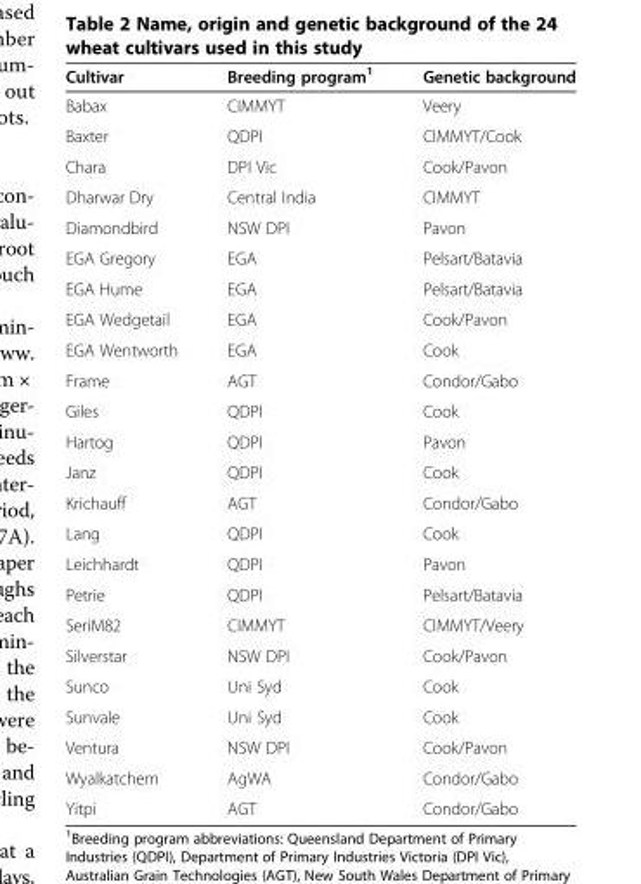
<table><thead><tr><td>Cultivar</td><td>Breeding program<sup>1</sup></td><td>Genetic background</td></tr></thead><tbody><tr><td>Babax</td><td>CIMMYT</td><td>Veery</td></tr><tr><td>Baxter</td><td>QDPI</td><td>CIMMYT/Cook</td></tr><tr><td>Chara</td><td>DPI Vic</td><td>Cook/Pavon</td></tr><tr><td>Dharwar Dry</td><td>Central India</td><td>CIMMYT</td></tr><tr><td>Diamondbird</td><td>NSW DPI</td><td>Pavon</td></tr><tr><td>EGA Gregory</td><td>EGA</td><td>Pelsart/Batavia</td></tr><tr><td>EGA Hume</td><td>EGA</td><td>Pelsart/Batavia</td></tr><tr><td>EGA Wedgetail</td><td>EGA</td><td>Cook/Pavon</td></tr><tr><td>EGA Wentworth</td><td>EGA</td><td>Cook</td></tr><tr><td>Frame</td><td>AGT</td><td>Condor/Gabo</td></tr><tr><td>Giles</td><td>QDPI</td><td>Cook</td></tr><tr><td>Hartog</td><td>QDPI</td><td>Pavon</td></tr><tr><td>Janz</td><td>QDPI</td><td>Cook</td></tr><tr><td>Krichauff</td><td>AGT</td><td>Condor/Gabo</td></tr><tr><td>Lang</td><td>QDPI</td><td>Cook</td></tr><tr><td>Leichhardt</td><td>QDPI</td><td>Pavon</td></tr><tr><td>Petrie</td><td>QDPI</td><td>Pelsart/Batavia</td></tr><tr><td>SeriM82</td><td>CIMMYT</td><td>CIMMYT/Veery</td></tr><tr><td>Silverstar</td><td>NSW DPI</td><td>Cook/Pavon</td></tr><tr><td>Sunco</td><td>Uni Syd</td><td>Cook</td></tr><tr><td>Sunvale</td><td>Uni Syd</td><td>Cook</td></tr><tr><td>Ventura</td><td>NSW DPI</td><td>Cook/Pavon</td></tr><tr><td>Wyalkatchem</td><td>AgWA</td><td>Condor/Gabo</td></tr><tr><td>Yitpi</td><td>AGT</td><td>Condor/Gabo</td></tr></tbody></table>